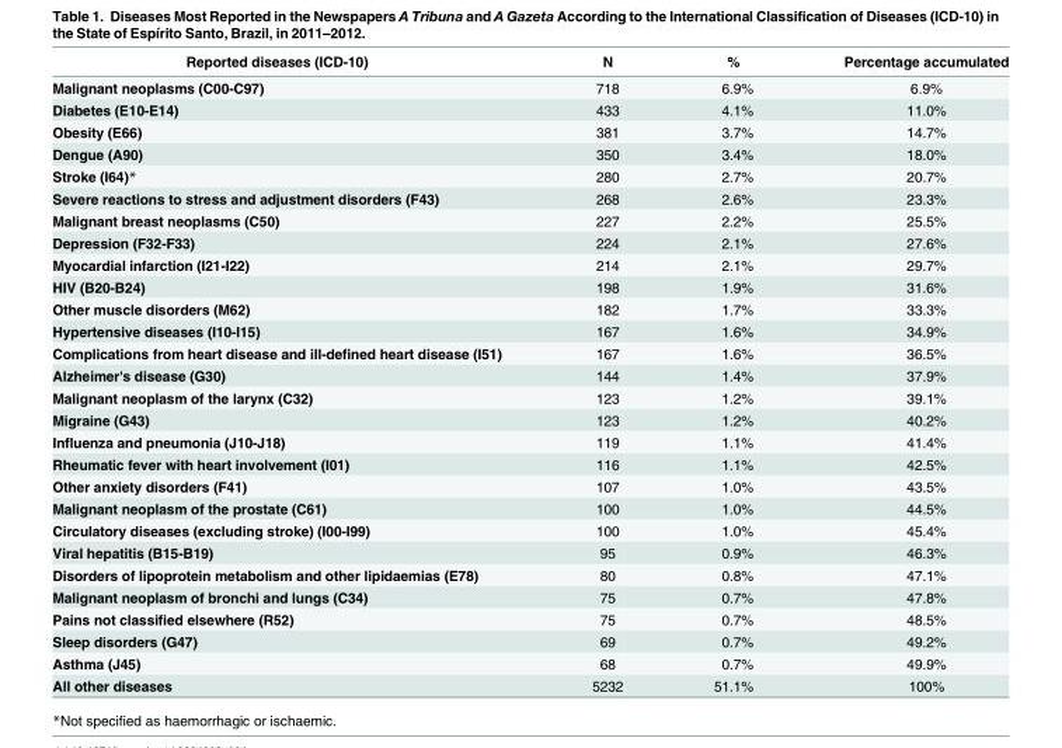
<table><thead><tr><td>Reported diseases (ICD-10)</td><td>N</td><td>%</td><td>Percentage accumulated</td></tr></thead><tbody><tr><td>Malignant neoplasms (C00-C97)</td><td>718</td><td>6.9%</td><td>6.9%</td></tr><tr><td>Diabetes (E10-E14)</td><td>433</td><td>4.1%</td><td>11.0%</td></tr><tr><td>Obesity (E66)</td><td>381</td><td>3.7%</td><td>14.7%</td></tr><tr><td>Dengue (A90)</td><td>350</td><td>3.4%</td><td>18.0%</td></tr><tr><td>Stroke (I64)*</td><td>280</td><td>2.7%</td><td>20.7%</td></tr><tr><td>Severe reactions to stress and adjustment disorders (F43)</td><td>268</td><td>2.6%</td><td>23.3%</td></tr><tr><td>Malignant breast neoplasms (C50)</td><td>227</td><td>2.2%</td><td>25.5%</td></tr><tr><td>Depression (F32-F33)</td><td>224</td><td>2.1%</td><td>27.6%</td></tr><tr><td>Myocardial infarction (I21-I22)</td><td>214</td><td>2.1%</td><td>29.7%</td></tr><tr><td>HIV (B20-B24)</td><td>198</td><td>1.9%</td><td>31.6%</td></tr><tr><td>Other muscle disorders (M62)</td><td>182</td><td>1.7%</td><td>33.3%</td></tr><tr><td>Hypertensive diseases (I10-I15)</td><td>167</td><td>1.6%</td><td>34.9%</td></tr><tr><td>Complications from heart disease and ill-defined heart disease (I51)</td><td>167</td><td>1.6%</td><td>36.5%</td></tr><tr><td>Alzheimer&#x27;s disease (G30)</td><td>144</td><td>1.4%</td><td>37.9%</td></tr><tr><td>Malignant neoplasm of the larynx (C32)</td><td>123</td><td>1.2%</td><td>39.1%</td></tr><tr><td>Migraine (G43)</td><td>123</td><td>1.2%</td><td>40.2%</td></tr><tr><td>Influenza and pneumonia (J10-J18)</td><td>119</td><td>1.1%</td><td>41.4%</td></tr><tr><td>Rheumatic fever with heart involvement (I01)</td><td>116</td><td>1.1%</td><td>42.5%</td></tr><tr><td>Other anxiety disorders (F41)</td><td>107</td><td>1.0%</td><td>43.5%</td></tr><tr><td>Malignant neoplasm of the prostate (C61)</td><td>100</td><td>1.0%</td><td>44.5%</td></tr><tr><td>Circulatory diseases (excluding stroke) (I00-I99)</td><td>100</td><td>1.0%</td><td>45.4%</td></tr><tr><td>Viral hepatitis (B15-B19)</td><td>95</td><td>0.9%</td><td>46.3%</td></tr><tr><td>Disorders of lipoprotein metabolism and other lipidaemias (E78)</td><td>80</td><td>0.8%</td><td>47.1%</td></tr><tr><td>Malignant neoplasm of bronchi and lungs (C34)</td><td>75</td><td>0.7%</td><td>47.8%</td></tr><tr><td>Pains not classified elsewhere (R52)</td><td>75</td><td>0.7%</td><td>48.5%</td></tr><tr><td>Sleep disorders (G47)</td><td>69</td><td>0.7%</td><td>49.2%</td></tr><tr><td>Asthma (J45)</td><td>68</td><td>0.7%</td><td>49.9%</td></tr><tr><td>All other diseases</td><td>5232</td><td>51.1%</td><td>100%</td></tr></tbody></table>